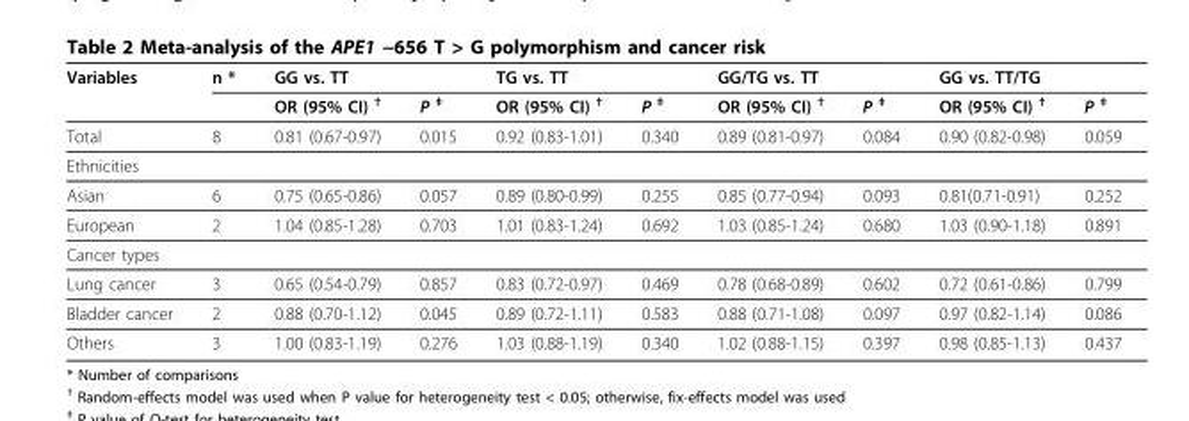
<table><thead><tr><td rowspan="2">Variables</td><td rowspan="2">n *</td><td colspan="2">GG vs. TT</td><td colspan="2">TG vs. TT</td><td colspan="2">GG/TG vs. TT</td><td colspan="2">GG vs. TT/TG</td></tr><tr><td>OR (95% CI) <sup>†</sup></td><td>P <sup>‡</sup></td><td>OR (95% CI) <sup>†</sup></td><td>P <sup>‡</sup></td><td>OR (95% CI) <sup>†</sup></td><td>P <sup>‡</sup></td><td>OR (95% CI) <sup>†</sup></td><td>P <sup>‡</sup></td></tr></thead><tbody><tr><td>Total</td><td>8</td><td>0.81 (0.67-0.97)</td><td>0.015</td><td>0.92 (0.83-1.01)</td><td>0.340</td><td>0.89 (0.81-0.97)</td><td>0.084</td><td>0.90 (0.82-0.98)</td><td>0.059</td></tr><tr><td colspan="10">Ethnicities</td></tr><tr><td>Asian</td><td>6</td><td>0.75 (0.65-0.86)</td><td>0.057</td><td>0.89 (0.80-0.99)</td><td>0.255</td><td>0.85 (0.77-0.94)</td><td>0.093</td><td>0.81(0.71-0.91)</td><td>0.252</td></tr><tr><td>European</td><td>2</td><td>1.04 (0.85-1.28)</td><td>0.703</td><td>1.01 (0.83-1.24)</td><td>0.692</td><td>1.03 (0.85-1.24)</td><td>0.680</td><td>1.03 (0.90-1.18)</td><td>0.891</td></tr><tr><td colspan="10">Cancer types</td></tr><tr><td>Lung cancer</td><td>3</td><td>0.65 (0.54-0.79)</td><td>0.857</td><td>0.83 (0.72-0.97)</td><td>0.469</td><td>0.78 (0.68-0.89)</td><td>0.602</td><td>0.72 (0.61-0.86)</td><td>0.799</td></tr><tr><td>Bladder cancer</td><td>2</td><td>0.88 (0.70-1.12)</td><td>0.045</td><td>0.89 (0.72-1.11)</td><td>0.583</td><td>0.88 (0.71-1.08)</td><td>0.097</td><td>0.97 (0.82-1.14)</td><td>0.086</td></tr><tr><td>Others</td><td>3</td><td>1.00 (0.83-1.19)</td><td>0.276</td><td>1.03 (0.88-1.19)</td><td>0.340</td><td>1.02 (0.88-1.15)</td><td>0.397</td><td>0.98 (0.85-1.13)</td><td>0.437</td></tr></tbody></table>